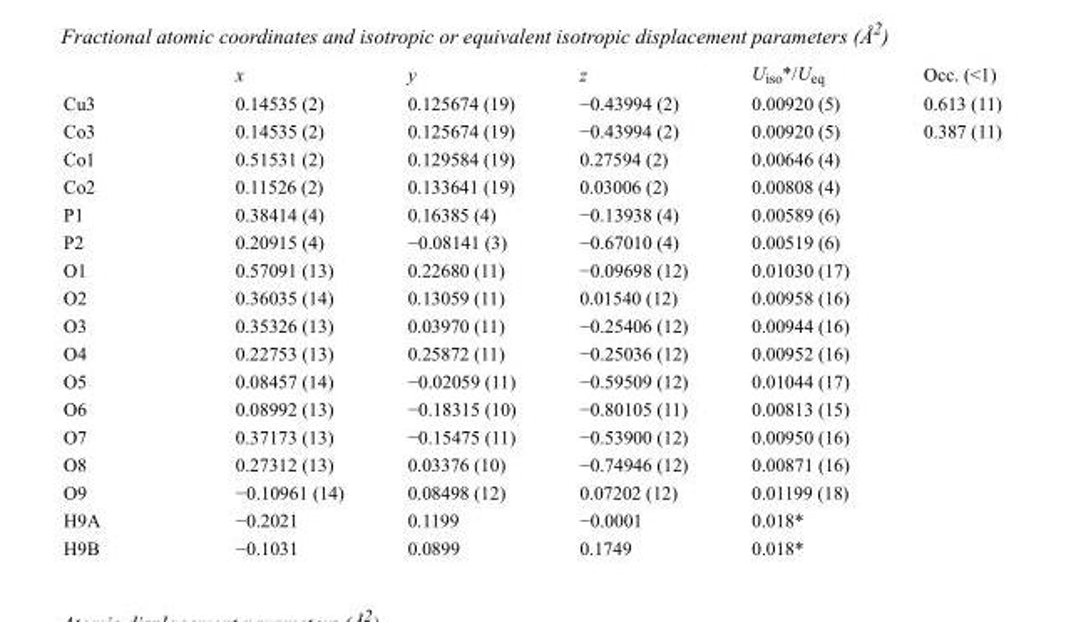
<table><thead><tr><td></td><td>x</td><td>y</td><td>z</td><td>U<sub>iso</sub>*/U<sub>eq</sub></td><td>Occ. (&lt;1)</td></tr></thead><tbody><tr><td>Cu3</td><td>0.14535 (2)</td><td>0.125674 (19)</td><td>−0.43994 (2)</td><td>0.00920 (5)</td><td>0.613 (11)</td></tr><tr><td>Co3</td><td>0.14535 (2)</td><td>0.125674 (19)</td><td>−0.43994 (2)</td><td>0.00920 (5)</td><td>0.387 (11)</td></tr><tr><td>Co1</td><td>0.51531 (2)</td><td>0.129584 (19)</td><td>0.27594 (2)</td><td>0.00646 (4)</td><td></td></tr><tr><td>Co2</td><td>0.11526 (2)</td><td>0.133641 (19)</td><td>0.03006 (2)</td><td>0.00808 (4)</td><td></td></tr><tr><td>P1</td><td>0.38414 (4)</td><td>0.16385 (4)</td><td>−0.13938 (4)</td><td>0.00589 (6)</td><td></td></tr><tr><td>P2</td><td>0.20915 (4)</td><td>−0.08141 (3)</td><td>−0.67010 (4)</td><td>0.00519 (6)</td><td></td></tr><tr><td>O1</td><td>0.57091 (13)</td><td>0.22680 (11)</td><td>−0.09698 (12)</td><td>0.01030 (17)</td><td></td></tr><tr><td>O2</td><td>0.36035 (14)</td><td>0.13059 (11)</td><td>0.01540 (12)</td><td>0.00958 (16)</td><td></td></tr><tr><td>O3</td><td>0.35326 (13)</td><td>0.03970 (11)</td><td>−0.25406 (12)</td><td>0.00944 (16)</td><td></td></tr><tr><td>O4</td><td>0.22753 (13)</td><td>0.25872 (11)</td><td>−0.25036 (12)</td><td>0.00952 (16)</td><td></td></tr><tr><td>O5</td><td>0.08457 (14)</td><td>−0.02059 (11)</td><td>−0.59509 (12)</td><td>0.01044 (17)</td><td></td></tr><tr><td>O6</td><td>0.08992 (13)</td><td>−0.18315 (10)</td><td>−0.80105 (11)</td><td>0.00813 (15)</td><td></td></tr><tr><td>O7</td><td>0.37173 (13)</td><td>−0.15475 (11)</td><td>−0.53900 (12)</td><td>0.00950 (16)</td><td></td></tr><tr><td>O8</td><td>0.27312 (13)</td><td>0.03376 (10)</td><td>−0.74946 (12)</td><td>0.00871 (16)</td><td></td></tr><tr><td>O9</td><td>−0.10961 (14)</td><td>0.08498 (12)</td><td>0.07202 (12)</td><td>0.01199 (18)</td><td></td></tr><tr><td>H9A</td><td>−0.2021</td><td>0.1199</td><td>−0.0001</td><td>0.018*</td><td></td></tr><tr><td>H9B</td><td>−0.1031</td><td>0.0899</td><td>0.1749</td><td>0.018*</td><td></td></tr></tbody></table>